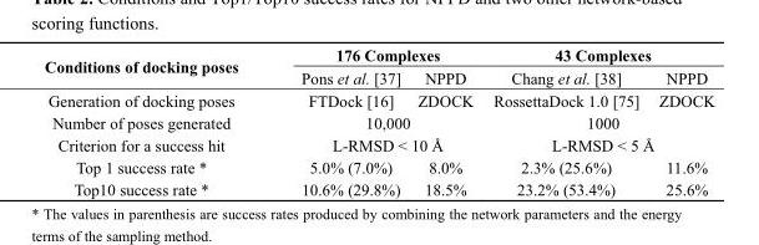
<table><tbody><tr><td rowspan="2">Conditions of docking poses</td><td colspan="2">176 Complexes</td><td colspan="2">43 Complexes</td></tr><tr><td>Pons et al. [37]</td><td>NPPD</td><td>Chang et al. [38]</td><td>NPPD</td></tr><tr><td>Generation of docking poses</td><td>FTDock [16]</td><td>ZDOCK</td><td>RossettaDock 1.0 [75]</td><td>ZDOCK</td></tr><tr><td>Number of poses generated</td><td colspan="2">10,000</td><td colspan="2">1000</td></tr><tr><td>Criterion for a success hit</td><td colspan="2">L-RMSD &lt; 10 Å</td><td colspan="2">L-RMSD &lt; 5 Å</td></tr><tr><td>Top 1 success rate *</td><td>5.0% (7.0%)</td><td>8.0%</td><td>2.3% (25.6%)</td><td>11.6%</td></tr><tr><td>Top10 success rate *</td><td>10.6% (29.8%)</td><td>18.5%</td><td>23.2% (53.4%)</td><td>25.6%</td></tr></tbody></table>